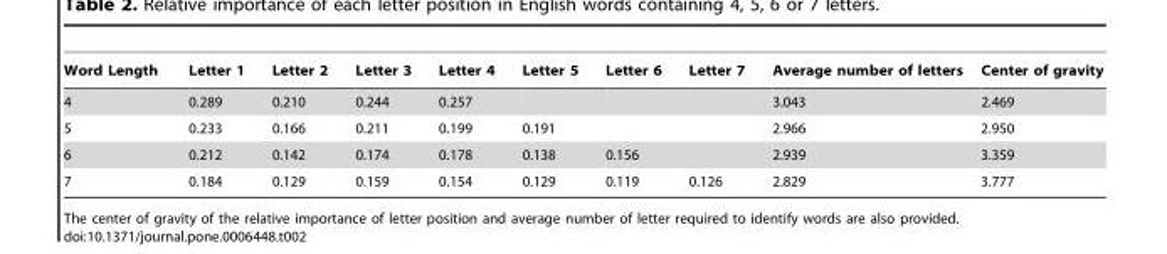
<table><thead><tr><td>Word Length</td><td>Letter 1</td><td>Letter 2</td><td>Letter 3</td><td>Letter 4</td><td>Letter 5</td><td>Letter 6</td><td>Letter 7</td><td>Average number of letters</td><td>Center of gravity</td></tr></thead><tbody><tr><td>4</td><td>0.289</td><td>0.210</td><td>0.244</td><td>0.257</td><td></td><td></td><td></td><td>3.043</td><td>2.469</td></tr><tr><td>5</td><td>0.233</td><td>0.166</td><td>0.211</td><td>0.199</td><td>0.191</td><td></td><td></td><td>2.966</td><td>2.950</td></tr><tr><td>6</td><td>0.212</td><td>0.142</td><td>0.174</td><td>0.178</td><td>0.138</td><td>0.156</td><td></td><td>2.939</td><td>3.359</td></tr><tr><td>7</td><td>0.184</td><td>0.129</td><td>0.159</td><td>0.154</td><td>0.129</td><td>0.119</td><td>0.126</td><td>2.829</td><td>3.777</td></tr></tbody></table>